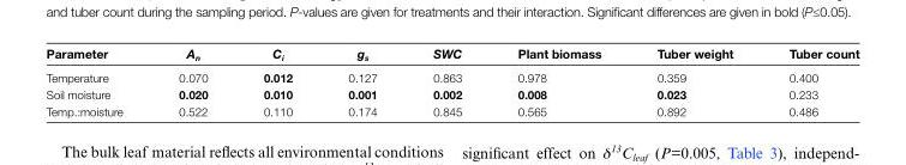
<table><thead><tr><td>Parameter</td><td>A<sub>n</sub></td><td>C<sub>i</sub></td><td>g<sub>s</sub></td><td>SWC</td><td>Plant biomass</td><td>Tuber weight</td><td>Tuber count</td></tr></thead><tbody><tr><td>Temperature</td><td>0.070</td><td>0.012</td><td>0.127</td><td>0.863</td><td>0.978</td><td>0.359</td><td>0.400</td></tr><tr><td>Soil moisture</td><td>0.020</td><td>0.010</td><td>0.001</td><td>0.002</td><td>0.008</td><td>0.023</td><td>0.233</td></tr><tr><td>Temp.:moisture</td><td>0.522</td><td>0.110</td><td>0.174</td><td>0.845</td><td>0.565</td><td>0.892</td><td>0.486</td></tr></tbody></table>